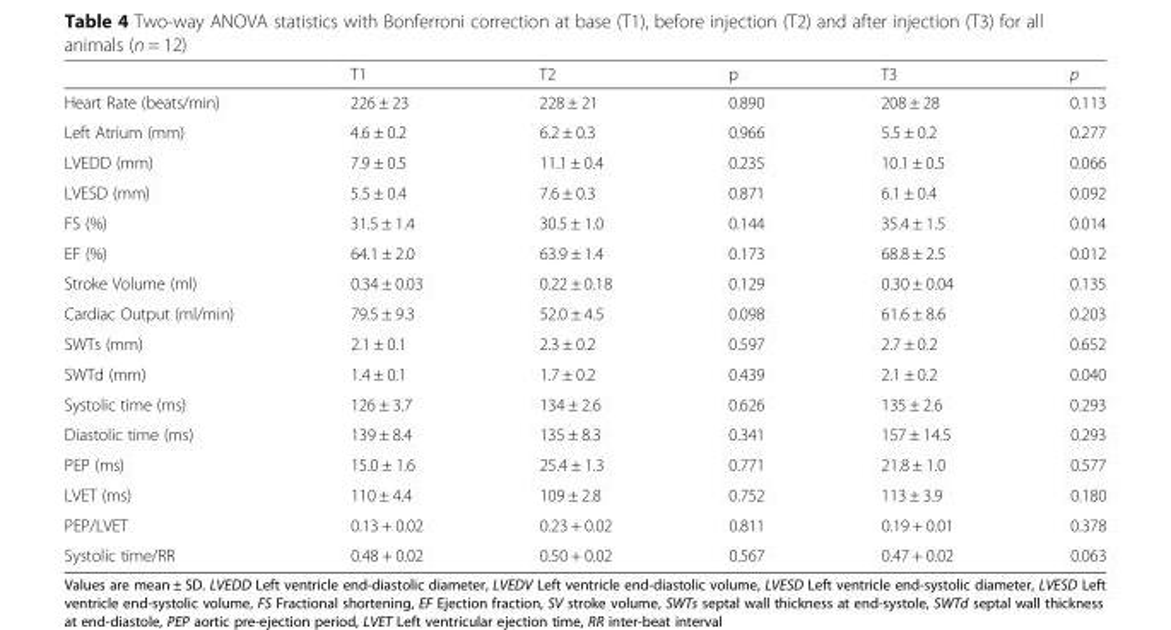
<table><thead><tr><td></td><td>T1</td><td>T2</td><td>p</td><td>T3</td><td>p</td></tr></thead><tbody><tr><td>Heart Rate (beats/min)</td><td>226 ± 23</td><td>228 ± 21</td><td>0.890</td><td>208 ± 28</td><td>0.113</td></tr><tr><td>Left Atrium (mm)</td><td>4.6 ± 0.2</td><td>6.2 ± 0.3</td><td>0.966</td><td>5.5 ± 0.2</td><td>0.277</td></tr><tr><td>LVEDD (mm)</td><td>7.9 ± 0.5</td><td>11.1 ± 0.4</td><td>0.235</td><td>10.1 ± 0.5</td><td>0.066</td></tr><tr><td>LVESD (mm)</td><td>5.5 ± 0.4</td><td>7.6 ± 0.3</td><td>0.871</td><td>6.1 ± 0.4</td><td>0.092</td></tr><tr><td>FS (%)</td><td>31.5 ± 1.4</td><td>30.5 ± 1.0</td><td>0.144</td><td>35.4 ± 1.5</td><td>0.014</td></tr><tr><td>EF (%)</td><td>64.1 ± 2.0</td><td>63.9 ± 1.4</td><td>0.173</td><td>68.8 ± 2.5</td><td>0.012</td></tr><tr><td>Stroke Volume (ml)</td><td>0.34 ± 0.03</td><td>0.22 ± 0.18</td><td>0.129</td><td>0.30 ± 0.04</td><td>0.135</td></tr><tr><td>Cardiac Output (ml/min)</td><td>79.5 ± 9.3</td><td>52.0 ± 4.5</td><td>0.098</td><td>61.6 ± 8.6</td><td>0.203</td></tr><tr><td>SWTs (mm)</td><td>2.1 ± 0.1</td><td>2.3 ± 0.2</td><td>0.597</td><td>2.7 ± 0.2</td><td>0.652</td></tr><tr><td>SWTd (mm)</td><td>1.4 ± 0.1</td><td>1.7 ± 0.2</td><td>0.439</td><td>2.1 ± 0.2</td><td>0.040</td></tr><tr><td>Systolic time (ms)</td><td>126 ± 3.7</td><td>134 ± 2.6</td><td>0.626</td><td>135 ± 2.6</td><td>0.293</td></tr><tr><td>Diastolic time (ms)</td><td>139 ± 8.4</td><td>135 ± 8.3</td><td>0.341</td><td>157 ± 14.5</td><td>0.293</td></tr><tr><td>PEP (ms)</td><td>15.0 ± 1.6</td><td>25.4 ± 1.3</td><td>0.771</td><td>21.8 ± 1.0</td><td>0.577</td></tr><tr><td>LVET (ms)</td><td>110 ± 4.4</td><td>109 ± 2.8</td><td>0.752</td><td>113 ± 3.9</td><td>0.180</td></tr><tr><td>PEP/LVET</td><td>0.13 + 0.02</td><td>0.23 + 0.02</td><td>0.811</td><td>0.19 + 0.01</td><td>0.378</td></tr><tr><td>Systolic time/RR</td><td>0.48 + 0.02</td><td>0.50 + 0.02</td><td>0.567</td><td>0.47 + 0.02</td><td>0.063</td></tr></tbody></table>